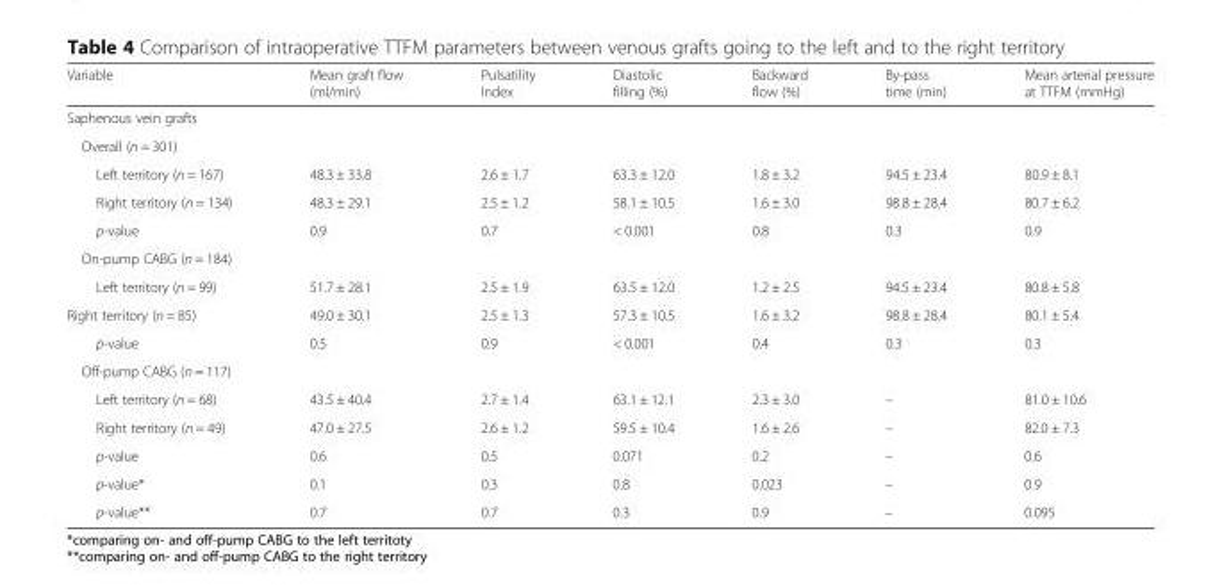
<table><thead><tr><td>Variable</td><td>Mean graft flow (ml/min)</td><td>Pulsatility Index</td><td>Diastolic filling (%)</td><td>Backward flow (%)</td><td>By-pass time (min)</td><td>Mean arterial pressure at TTFM (mmHg)</td></tr></thead><tbody><tr><td colspan="7">Saphenous vein grafts</td></tr><tr><td colspan="7">Overall (n = 301)</td></tr><tr><td>Left territory (n = 167)</td><td>48.3 ± 33.8</td><td>2.6 ± 1.7</td><td>63.3 ± 12.0</td><td>1.8 ± 3.2</td><td>94.5 ± 23.4</td><td>80.9 ± 8.1</td></tr><tr><td>Right territory (n = 134)</td><td>48.3 ± 29.1</td><td>2.5 ± 1.2</td><td>58.1 ± 10.5</td><td>1.6 ± 3.0</td><td>98.8 ± 28.4</td><td>80.7 ± 6.2</td></tr><tr><td>p-value</td><td>0.9</td><td>0.7</td><td>&lt; 0.001</td><td>0.8</td><td>0.3</td><td>0.9</td></tr><tr><td colspan="7">On-pump CABG (n = 184)</td></tr><tr><td>Left territory (n = 99)</td><td>51.7 ± 28.1</td><td>2.5 ± 1.9</td><td>63.5 ± 12.0</td><td>1.2 ± 2.5</td><td>94.5 ± 23.4</td><td>80.8 ± 5.8</td></tr><tr><td>Right territory (n = 85)</td><td>49.0 ± 30.1</td><td>2.5 ± 1.3</td><td>57.3 ± 10.5</td><td>1.6 ± 3.2</td><td>98.8 ± 28.4</td><td>80.1 ± 5.4</td></tr><tr><td>p-value</td><td>0.5</td><td>0.9</td><td>&lt; 0.001</td><td>0.4</td><td>0.3</td><td>0.3</td></tr><tr><td colspan="7">Off-pump CABG (n = 117)</td></tr><tr><td>Left territory (n = 68)</td><td>43.5 ± 40.4</td><td>2.7 ± 1.4</td><td>63.1 ± 12.1</td><td>2.3 ± 3.0</td><td>–</td><td>81.0 ± 10.6</td></tr><tr><td>Right territory (n = 49)</td><td>47.0 ± 27.5</td><td>2.6 ± 1.2</td><td>59.5 ± 10.4</td><td>1.6 ± 2.6</td><td>–</td><td>82.0 ± 7.3</td></tr><tr><td>p-value</td><td>0.6</td><td>0.5</td><td>0.071</td><td>0.2</td><td>–</td><td>0.6</td></tr><tr><td>p-value*</td><td>0.1</td><td>0.3</td><td>0.8</td><td>0.023</td><td>–</td><td>0.9</td></tr><tr><td>p-value**</td><td>0.7</td><td>0.7</td><td>0.3</td><td>0.9</td><td>–</td><td>0.095</td></tr></tbody></table>